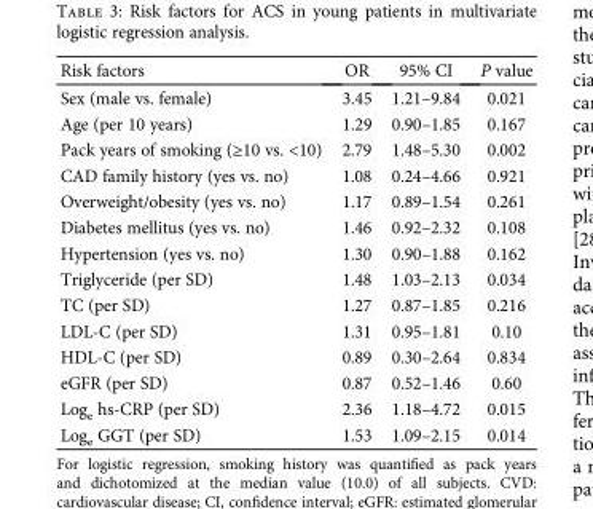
<table><thead><tr><td>Risk factors</td><td>OR</td><td>95% CI</td><td>P value</td></tr></thead><tbody><tr><td>Sex (male vs. female)</td><td>3.45</td><td>1.21–9.84</td><td>0.021</td></tr><tr><td>Age (per 10 years)</td><td>1.29</td><td>0.90–1.85</td><td>0.167</td></tr><tr><td>Pack years of smoking (≥10 vs. &lt;10)</td><td>2.79</td><td>1.48–5.30</td><td>0.002</td></tr><tr><td>CAD family history (yes vs. no)</td><td>1.08</td><td>0.24–4.66</td><td>0.921</td></tr><tr><td>Overweight/obesity (yes vs. no)</td><td>1.17</td><td>0.89–1.54</td><td>0.261</td></tr><tr><td>Diabetes mellitus (yes vs. no)</td><td>1.46</td><td>0.92–2.32</td><td>0.108</td></tr><tr><td>Hypertension (yes vs. no)</td><td>1.30</td><td>0.90–1.88</td><td>0.162</td></tr><tr><td>Triglyceride (per SD)</td><td>1.48</td><td>1.03–2.13</td><td>0.034</td></tr><tr><td>TC (per SD)</td><td>1.27</td><td>0.87–1.85</td><td>0.216</td></tr><tr><td>LDL-C (per SD)</td><td>1.31</td><td>0.95–1.81</td><td>0.10</td></tr><tr><td>HDL-C (per SD)</td><td>0.89</td><td>0.30–2.64</td><td>0.834</td></tr><tr><td>eGFR (per SD)</td><td>0.87</td><td>0.52–1.46</td><td>0.60</td></tr><tr><td>Log<sub>e</sub> hs-CRP (per SD)</td><td>2.36</td><td>1.18–4.72</td><td>0.015</td></tr><tr><td>Log<sub>e</sub> GGT (per SD)</td><td>1.53</td><td>1.09–2.15</td><td>0.014</td></tr></tbody></table>